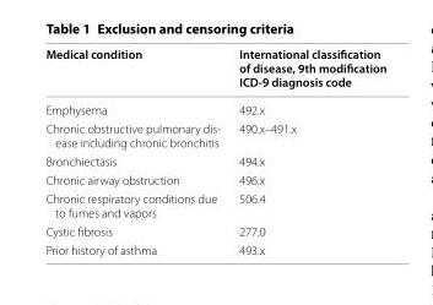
<table><thead><tr><td>Medical condition</td><td>International classification of disease, 9th modification ICD-9 diagnosis code</td></tr></thead><tbody><tr><td>Emphysema</td><td>492.x</td></tr><tr><td>Chronic obstructive pulmonary dis- ease including chronic bronchitis</td><td>490.x–491.x</td></tr><tr><td>Bronchiectasis</td><td>494.x</td></tr><tr><td>Chronic airway obstruction</td><td>496.x</td></tr><tr><td>Chronic respiratory conditions due to fumes and vapors</td><td>506.4</td></tr><tr><td>Cystic fibrosis</td><td>277.0</td></tr><tr><td>Prior history of asthma</td><td>493.x</td></tr></tbody></table>